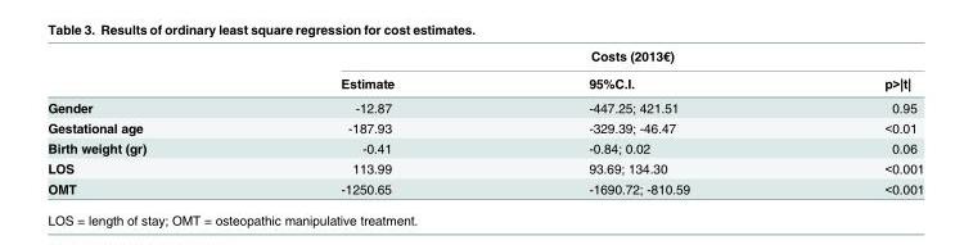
<table><thead><tr><td rowspan="2"></td><td colspan="3">Costs (2013€)</td></tr><tr><td>Estimate</td><td>95%C.I.</td><td>p&gt;|t|</td></tr></thead><tbody><tr><td>Gender</td><td>-12.87</td><td>-447.25; 421.51</td><td>0.95</td></tr><tr><td>Gestational age</td><td>-187.93</td><td>-329.39; -46.47</td><td>&lt;0.01</td></tr><tr><td>Birth weight (gr)</td><td>-0.41</td><td>-0.84; 0.02</td><td>0.06</td></tr><tr><td>LOS</td><td>113.99</td><td>93.69; 134.30</td><td>&lt;0.001</td></tr><tr><td>OMT</td><td>-1250.65</td><td>-1690.72; -810.59</td><td>&lt;0.001</td></tr></tbody></table>